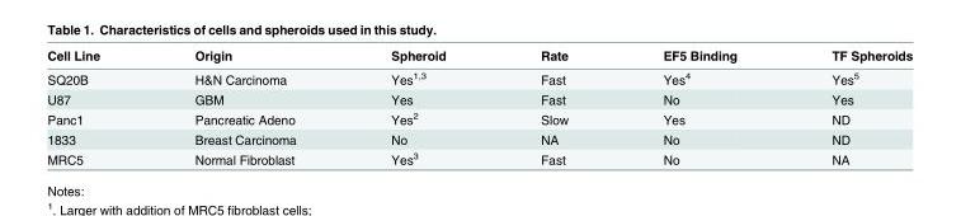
<table><thead><tr><td>Cell Line</td><td>Origin</td><td>Spheroid</td><td>Rate</td><td>EF5 Binding</td><td>TF Spheroids</td></tr></thead><tbody><tr><td>SQ20B</td><td>H&amp;N Carcinoma</td><td>Yes<sup>1,3</sup></td><td>Fast</td><td>Yes<sup>4</sup></td><td>Yes<sup>5</sup></td></tr><tr><td>U87</td><td>GBM</td><td>Yes</td><td>Fast</td><td>No</td><td>Yes</td></tr><tr><td>Panc1</td><td>Pancreatic Adeno</td><td>Yes<sup>2</sup></td><td>Slow</td><td>Yes</td><td>ND</td></tr><tr><td>1833</td><td>Breast Carcinoma</td><td>No</td><td>NA</td><td>No</td><td>ND</td></tr><tr><td>MRC5</td><td>Normal Fibroblast</td><td>Yes<sup>3</sup></td><td>Fast</td><td>No</td><td>NA</td></tr></tbody></table>